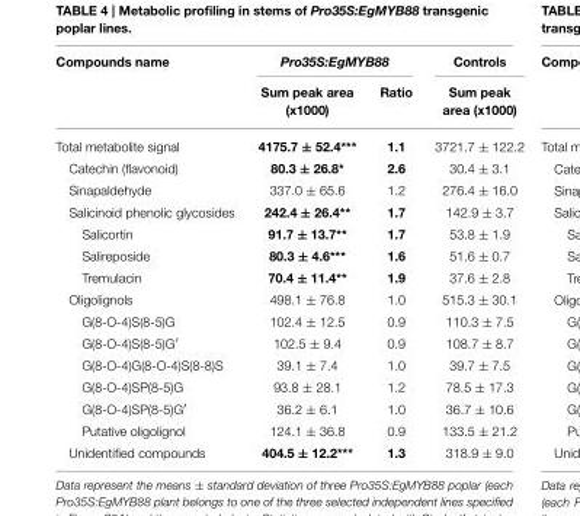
<table><thead><tr><td rowspan="2">Compounds name</td><td colspan="2">Pro35S:EgMYB88</td><td rowspan="2">Controls Sum peak area (x1000)</td></tr><tr><td>Sum peak area (x1000)</td><td>Ratio</td></tr></thead><tbody><tr><td>Total metabolite signal</td><td>4175.7 ± 52.4***</td><td>1.1</td><td>3721.7 ± 122.2</td></tr><tr><td>Catechin (flavonoid)</td><td>80.3 ± 26.8*</td><td>2.6</td><td>30.4 ± 3.1</td></tr><tr><td>Sinapaldehyde</td><td>337.0 ± 65.6</td><td>1.2</td><td>276.4 ± 16.0</td></tr><tr><td>Salicinoid phenolic glycosides</td><td>242.4 ± 26.4**</td><td>1.7</td><td>142.9 ± 3.7</td></tr><tr><td>Salicortin</td><td>91.7 ± 13.7**</td><td>1.7</td><td>53.8 ± 1.9</td></tr><tr><td>Salireposide</td><td>80.3 ± 4.6***</td><td>1.6</td><td>51.6 ± 0.7</td></tr><tr><td>Tremulacin</td><td>70.4 ± 11.4**</td><td>1.9</td><td>37.6 ± 2.8</td></tr><tr><td>Oligolignols</td><td>498.1 ± 76.8</td><td>1.0</td><td>515.3 ± 30.1</td></tr><tr><td>G(8-O-4)S(8-5)G</td><td>102.4 ± 12.5</td><td>0.9</td><td>110.3 ± 7.5</td></tr><tr><td>G(8-O-4)S(8-5)G′</td><td>102.5 ± 9.4</td><td>0.9</td><td>108.7 ± 8.7</td></tr><tr><td>G(8-O-4)G(8-O-4)S(8-8)S</td><td>39.1 ± 7.4</td><td>1.0</td><td>39.7 ± 7.5</td></tr><tr><td>G(8-O-4)SP(8-5)G</td><td>93.8 ± 28.1</td><td>1.2</td><td>78.5 ± 17.3</td></tr><tr><td>G(8-O-4)SP(8-5)G′</td><td>36.2 ± 6.1</td><td>1.0</td><td>36.7 ± 10.6</td></tr><tr><td>Putative oligolignol</td><td>124.1 ± 36.8</td><td>0.9</td><td>133.5 ± 21.2</td></tr><tr><td>Unidentified compounds</td><td>404.5 ± 12.2***</td><td>1.3</td><td>318.9 ± 9.0</td></tr></tbody></table>